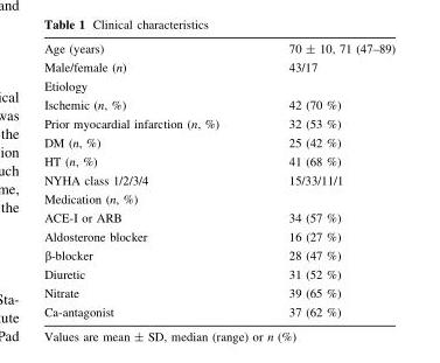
<table><tbody><tr><td>Age (years)</td><td>70 ± 10, 71 (47–89)</td></tr><tr><td>Male/female (n)</td><td>43/17</td></tr><tr><td colspan="2">Etiology</td></tr><tr><td>Ischemic (n, %)</td><td>42 (70 %)</td></tr><tr><td>Prior myocardial infarction (n, %)</td><td>32 (53 %)</td></tr><tr><td>DM (n, %)</td><td>25 (42 %)</td></tr><tr><td>HT (n, %)</td><td>41 (68 %)</td></tr><tr><td>NYHA class 1/2/3/4</td><td>15/33/11/1</td></tr><tr><td colspan="2">Medication (n, %)</td></tr><tr><td>ACE-I or ARB</td><td>34 (57 %)</td></tr><tr><td>Aldosterone blocker</td><td>16 (27 %)</td></tr><tr><td>β-blocker</td><td>28 (47 %)</td></tr><tr><td>Diuretic</td><td>31 (52 %)</td></tr><tr><td>Nitrate</td><td>39 (65 %)</td></tr><tr><td>Ca-antagonist</td><td>37 (62 %)</td></tr></tbody></table>